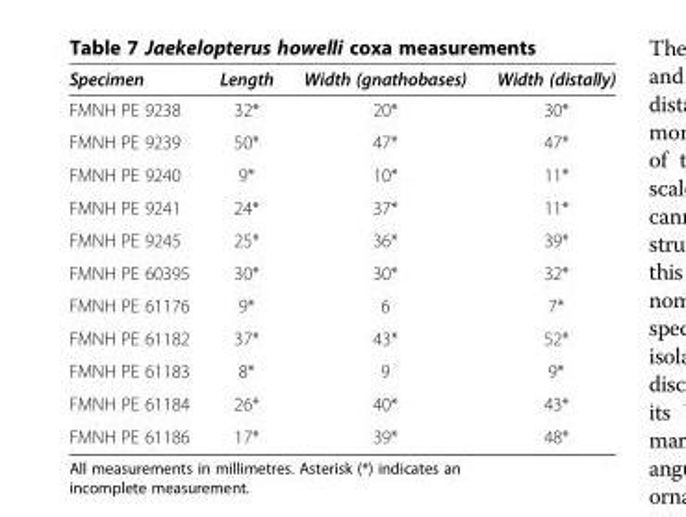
<table><thead><tr><td>Specimen</td><td>Length</td><td>Width (gnathobases)</td><td>Width (distally)</td></tr></thead><tbody><tr><td>FMNH PE 9238</td><td>32*</td><td>20*</td><td>30*</td></tr><tr><td>FMNH PE 9239</td><td>50*</td><td>47*</td><td>47*</td></tr><tr><td>FMNH PE 9240</td><td>9*</td><td>10*</td><td>11*</td></tr><tr><td>FMNH PE 9241</td><td>24*</td><td>37*</td><td>11*</td></tr><tr><td>FMNH PE 9245</td><td>25*</td><td>36*</td><td>39*</td></tr><tr><td>FMNH PE 60395</td><td>30*</td><td>30*</td><td>32*</td></tr><tr><td>FMNH PE 61176</td><td>9*</td><td>6</td><td>7*</td></tr><tr><td>FMNH PE 61182</td><td>37*</td><td>43*</td><td>52*</td></tr><tr><td>FMNH PE 61183</td><td>8*</td><td>9</td><td>9*</td></tr><tr><td>FMNH PE 61184</td><td>26*</td><td>40*</td><td>43*</td></tr><tr><td>FMNH PE 61186</td><td>17*</td><td>39*</td><td>48*</td></tr></tbody></table>